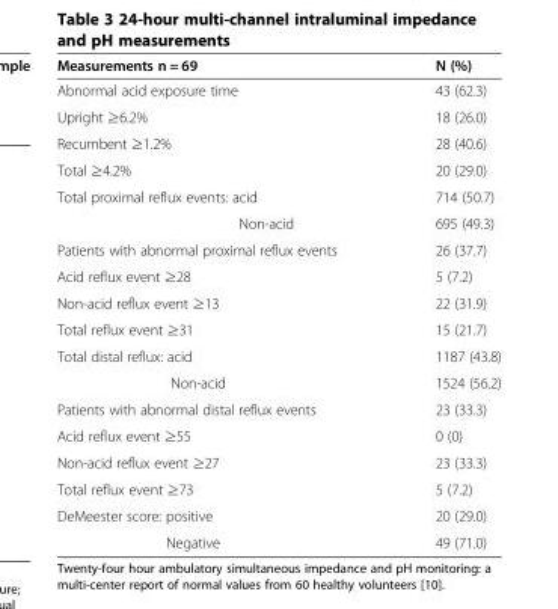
<table><thead><tr><td>Measurements n = 69</td><td>N (%)</td></tr></thead><tbody><tr><td>Abnormal acid exposure time</td><td>43 (62.3)</td></tr><tr><td>Upright ≥6.2%</td><td>18 (26.0)</td></tr><tr><td>Recumbent ≥1.2%</td><td>28 (40.6)</td></tr><tr><td>Total ≥4.2%</td><td>20 (29.0)</td></tr><tr><td>Total proximal reflux events: acid</td><td>714 (50.7)</td></tr><tr><td>Non-acid</td><td>695 (49.3)</td></tr><tr><td>Patients with abnormal proximal reflux events</td><td>26 (37.7)</td></tr><tr><td>Acid reflux event ≥28</td><td>5 (7.2)</td></tr><tr><td>Non-acid reflux event ≥13</td><td>22 (31.9)</td></tr><tr><td>Total reflux event ≥31</td><td>15 (21.7)</td></tr><tr><td>Total distal reflux: acid</td><td>1187 (43.8)</td></tr><tr><td>Non-acid</td><td>1524 (56.2)</td></tr><tr><td>Patients with abnormal distal reflux events</td><td>23 (33.3)</td></tr><tr><td>Acid reflux event ≥55</td><td>0 (0)</td></tr><tr><td>Non-acid reflux event ≥27</td><td>23 (33.3)</td></tr><tr><td>Total reflux event ≥73</td><td>5 (7.2)</td></tr><tr><td>DeMeester score: positive</td><td>20 (29.0)</td></tr><tr><td>Negative</td><td>49 (71.0)</td></tr></tbody></table>